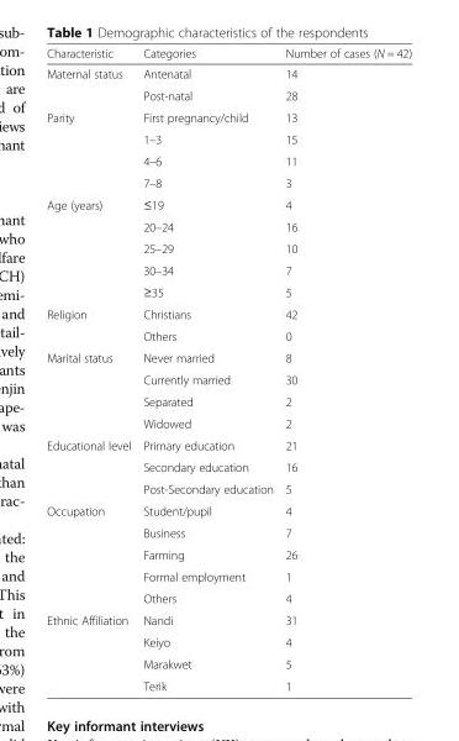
<table><thead><tr><td>Characteristic</td><td>Categories</td><td>Number of cases (N = 42)</td></tr></thead><tbody><tr><td rowspan="2">Maternal status</td><td>Antenatal</td><td>14</td></tr><tr><td>Post-natal</td><td>28</td></tr><tr><td rowspan="4">Parity</td><td>First pregnancy/child</td><td>13</td></tr><tr><td>1–3</td><td>15</td></tr><tr><td>4–6</td><td>11</td></tr><tr><td>7–8</td><td>3</td></tr><tr><td rowspan="5">Age (years)</td><td>≤19</td><td>4</td></tr><tr><td>20–24</td><td>16</td></tr><tr><td>25–29</td><td>10</td></tr><tr><td>30–34</td><td>7</td></tr><tr><td>≥35</td><td>5</td></tr><tr><td rowspan="2">Religion</td><td>Christians</td><td>42</td></tr><tr><td>Others</td><td>0</td></tr><tr><td rowspan="4">Marital status</td><td>Never married</td><td>8</td></tr><tr><td>Currently married</td><td>30</td></tr><tr><td>Separated</td><td>2</td></tr><tr><td>Widowed</td><td>2</td></tr><tr><td rowspan="3">Educational level</td><td>Primary education</td><td>21</td></tr><tr><td>Secondary education</td><td>16</td></tr><tr><td>Post-Secondary education</td><td>5</td></tr><tr><td rowspan="5">Occupation</td><td>Student/pupil</td><td>4</td></tr><tr><td>Business</td><td>7</td></tr><tr><td>Farming</td><td>26</td></tr><tr><td>Formal employment</td><td>1</td></tr><tr><td>Others</td><td>4</td></tr><tr><td rowspan="4">Ethnic Affiliation</td><td>Nandi</td><td>31</td></tr><tr><td>Keiyo</td><td>4</td></tr><tr><td>Marakwet</td><td>5</td></tr><tr><td>Terik</td><td>1</td></tr></tbody></table>